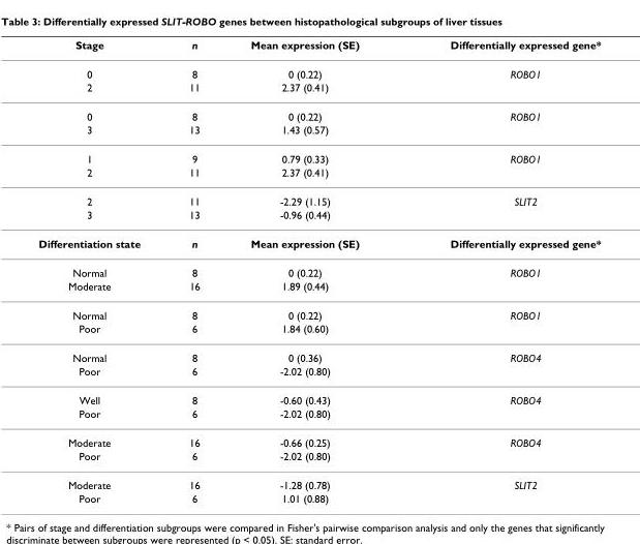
<table><thead><tr><td>Stage</td><td>n</td><td>Mean expression (SE)</td><td>Differentially expressed gene*</td></tr></thead><tbody><tr><td>0</td><td>8</td><td>0 (0.22)</td><td>ROBO1</td></tr><tr><td>2</td><td>11</td><td>2.37 (0.41)</td><td></td></tr><tr><td>0</td><td>8</td><td>0 (0.22)</td><td>ROBO1</td></tr><tr><td>3</td><td>13</td><td>1.43 (0.57)</td><td></td></tr><tr><td>1</td><td>9</td><td>0.79 (0.33)</td><td>ROBO1</td></tr><tr><td>2</td><td>11</td><td>2.37 (0.41)</td><td></td></tr><tr><td>2</td><td>11</td><td>-2.29 (1.15)</td><td>SLIT2</td></tr><tr><td>3</td><td>13</td><td>-0.96 (0.44)</td><td></td></tr><tr><td>Differentiation state</td><td>n</td><td>Mean expression (SE)</td><td>Differentially expressed gene*</td></tr><tr><td>Normal</td><td>8</td><td>0 (0.22)</td><td>ROBO1</td></tr><tr><td>Moderate</td><td>16</td><td>1.89 (0.44)</td><td></td></tr><tr><td>Normal</td><td>8</td><td>0 (0.22)</td><td>ROBO1</td></tr><tr><td>Poor</td><td>6</td><td>1.84 (0.60)</td><td></td></tr><tr><td>Normal</td><td>8</td><td>0 (0.36)</td><td>ROBO4</td></tr><tr><td>Poor</td><td>6</td><td>-2.02 (0.80)</td><td></td></tr><tr><td>Well</td><td>8</td><td>-0.60 (0.43)</td><td>ROBO4</td></tr><tr><td>Poor</td><td>6</td><td>-2.02 (0.80)</td><td></td></tr><tr><td>Moderate</td><td>16</td><td>-0.66 (0.25)</td><td>ROBO4</td></tr><tr><td>Poor</td><td>6</td><td>-2.02 (0.80)</td><td></td></tr><tr><td>Moderate</td><td>16</td><td>-1.28 (0.78)</td><td>SLIT2</td></tr><tr><td>Poor</td><td>6</td><td>1.01 (0.88)</td><td></td></tr></tbody></table>